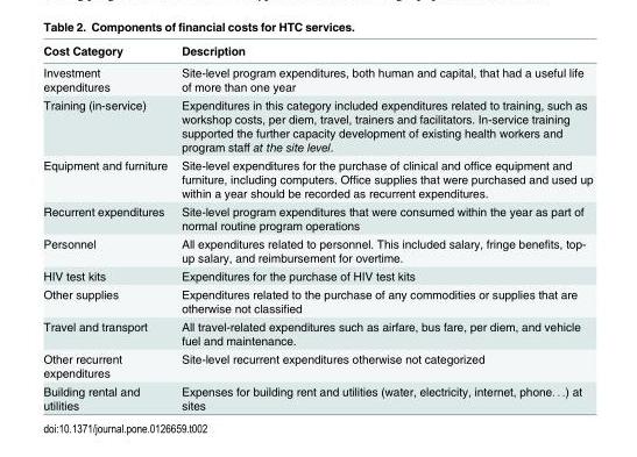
<table><thead><tr><td>Cost Category</td><td>Description</td></tr></thead><tbody><tr><td>Investment expenditures</td><td>Site-level program expenditures, both human and capital, that had a useful life of more than one year</td></tr><tr><td>Training (in-service)</td><td>Expenditures in this category included expenditures related to training, such as workshop costs, per diem, travel, trainers and facilitators. In-service training supported the further capacity development of existing health workers and program staff at the site level.</td></tr><tr><td>Equipment and furniture</td><td>Site-level expenditures for the purchase of clinical and office equipment and furniture, including computers. Office supplies that were purchased and used up within a year should be recorded as recurrent expenditures.</td></tr><tr><td>Recurrent expenditures</td><td>Site-level program expenditures that were consumed within the year as part of normal routine program operations</td></tr><tr><td>Personnel</td><td>All expenditures related to personnel. This included salary, fringe benefits, top- up salary, and reimbursement for overtime.</td></tr><tr><td>HIV test kits</td><td>Expenditures for the purchase of HIV test kits</td></tr><tr><td>Other supplies</td><td>Expenditures related to the purchase of any commodities or supplies that are otherwise not classified</td></tr><tr><td>Travel and transport</td><td>All travel-related expenditures such as airfare, bus fare, per diem, and vehicle fuel and maintenance.</td></tr><tr><td>Other recurrent expenditures</td><td>Site-level recurrent expenditures otherwise not categorized</td></tr><tr><td>Building rental and utilities</td><td>Expenses for building rent and utilities (water, electricity, internet, phone. . .) at sites</td></tr></tbody></table>